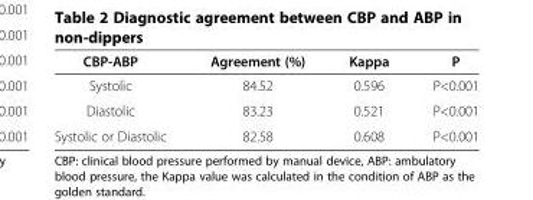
<table><thead><tr><td>CBP-ABP</td><td>Agreement (%)</td><td>Kappa</td><td>P</td></tr></thead><tbody><tr><td>Systolic</td><td>84.52</td><td>0.596</td><td>P&lt;0.001</td></tr><tr><td>Diastolic</td><td>83.23</td><td>0.521</td><td>P&lt;0.001</td></tr><tr><td>Systolic or Diastolic</td><td>82.58</td><td>0.608</td><td>P&lt;0.001</td></tr></tbody></table>